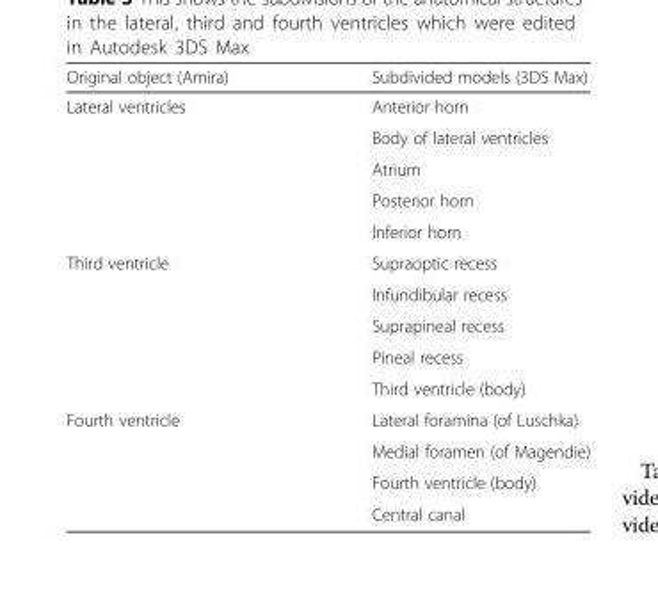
<table><thead><tr><td>Original object (Amira)</td><td>Subdivided models (3DS Max)</td></tr></thead><tbody><tr><td rowspan="5">Lateral ventricles</td><td>Anterior horn</td></tr><tr><td>Body of lateral ventricles</td></tr><tr><td>Atrium</td></tr><tr><td>Posterior horn</td></tr><tr><td>Inferior horn</td></tr><tr><td rowspan="5">Third ventricle</td><td>Supraoptic recess</td></tr><tr><td>Infundibular recess</td></tr><tr><td>Suprapineal recess</td></tr><tr><td>Pineal recess</td></tr><tr><td>Third ventricle (body)</td></tr><tr><td rowspan="4">Fourth ventricle</td><td>Lateral foramina (of Luschka)</td></tr><tr><td>Medial foramen (of Magendie)</td></tr><tr><td>Fourth ventricle (body)</td></tr><tr><td>Central canal</td></tr></tbody></table>